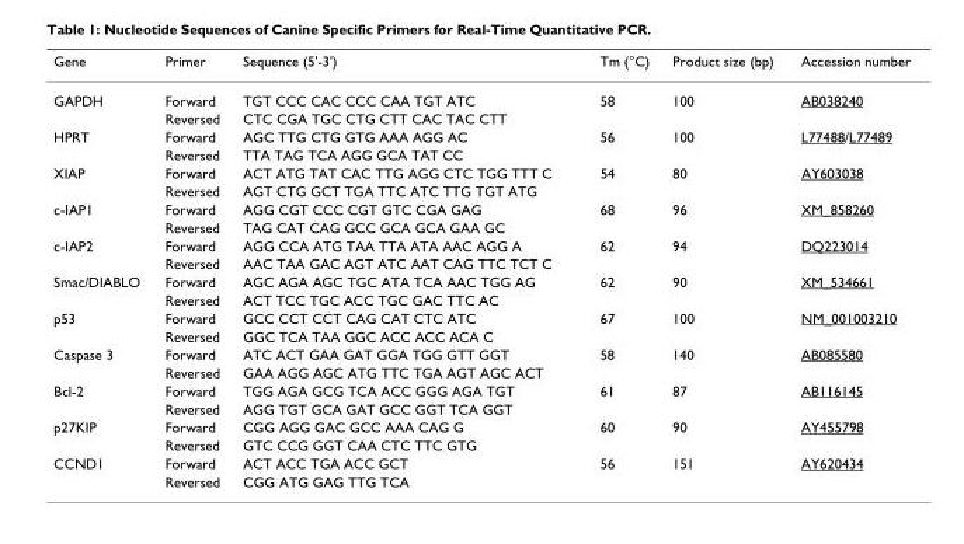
<table><thead><tr><td>Gene</td><td>Primer</td><td>Sequence (5&#x27;-3&#x27;)</td><td>Tm (°C)</td><td>Product size (bp)</td><td>Accession number</td></tr></thead><tbody><tr><td rowspan="2">GAPDH</td><td>Forward</td><td>TGT CCC CAC CCC CAA TGT ATC</td><td>58</td><td>100</td><td>AB038240</td></tr><tr><td>Reversed</td><td>CTC CGA TGC CTG CTT CAC TAC CTT</td><td></td><td></td><td></td></tr><tr><td rowspan="2">HPRT</td><td>Forward</td><td>AGC TTG CTG GTG AAA AGG AC</td><td>56</td><td>100</td><td>L77488/L77489</td></tr><tr><td>Reversed</td><td>TTA TAG TCA AGG GCA TAT CC</td><td></td><td></td><td></td></tr><tr><td rowspan="2">XIAP</td><td>Forward</td><td>ACT ATG TAT CAC TTG AGG CTC TGG TTT C</td><td>54</td><td>80</td><td>AY603038</td></tr><tr><td>Reversed</td><td>AGT CTG GCT TGA TTC ATC TTG TGT ATG</td><td></td><td></td><td></td></tr><tr><td rowspan="2">c-IAP1</td><td>Forward</td><td>AGG CGT CCC CGT GTC CGA GAG</td><td>68</td><td>96</td><td>XM_858260</td></tr><tr><td>Reversed</td><td>TAG CAT CAG GCC GCA GCA GAA GC</td><td></td><td></td><td></td></tr><tr><td rowspan="2">c-IAP2</td><td>Forward</td><td>AGG CCA ATG TAA TTA ATA AAC AGG A</td><td>62</td><td>94</td><td>DQ223014</td></tr><tr><td>Reversed</td><td>AAC TAA GAC AGT ATC AAT CAG TTC TCT C</td><td></td><td></td><td></td></tr><tr><td rowspan="2">Smac/DIABLO</td><td>Forward</td><td>AGC AGA AGC TGC ATA TCA AAC TGG AG</td><td>62</td><td>90</td><td>XM_534661</td></tr><tr><td>Reversed</td><td>ACT TCC TGC ACC TGC GAC TTC AC</td><td></td><td></td><td></td></tr><tr><td rowspan="2">p53</td><td>Forward</td><td>GCC CCT CCT CAG CAT CTC ATC</td><td>67</td><td>100</td><td>NM_001003210</td></tr><tr><td>Reversed</td><td>GGC TCA TAA GGC ACC ACC ACA C</td><td></td><td></td><td></td></tr><tr><td rowspan="2">Caspase 3</td><td>Forward</td><td>ATC ACT GAA GAT GGA TGG GTT GGT</td><td>58</td><td>140</td><td>AB085580</td></tr><tr><td>Reversed</td><td>GAA AGG AGC ATG TTC TGA AGT AGC ACT</td><td></td><td></td><td></td></tr><tr><td rowspan="2">Bcl-2</td><td>Forward</td><td>TGG AGA GCG TCA ACC GGG AGA TGT</td><td>61</td><td>87</td><td>AB116145</td></tr><tr><td>Reversed</td><td>AGG TGT GCA GAT GCC GGT TCA GGT</td><td></td><td></td><td></td></tr><tr><td rowspan="2">p27KIP</td><td>Forward</td><td>CGG AGG GAC GCC AAA CAG G</td><td>60</td><td>90</td><td>AY455798</td></tr><tr><td>Reversed</td><td>GTC CCG GGT CAA CTC TTC GTG</td><td></td><td></td><td></td></tr><tr><td rowspan="2">CCND1</td><td>Forward</td><td>ACT ACC TGA ACC GCT</td><td>56</td><td>151</td><td>AY620434</td></tr><tr><td>Reversed</td><td>CGG ATG GAG TTG TCA</td><td></td><td></td><td></td></tr></tbody></table>